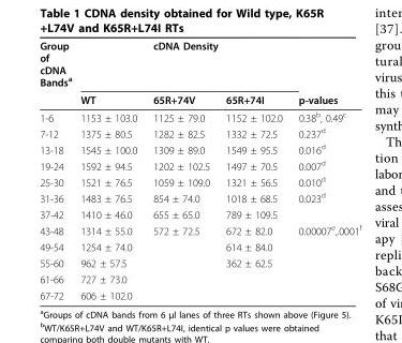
<table><thead><tr><td rowspan="2">Group of cDNA Bands<sup>a</sup></td><td colspan="3">cDNA Density</td><td rowspan="2">p-values</td></tr><tr><td>WT</td><td>65R+74V</td><td>65R+74I</td></tr></thead><tbody><tr><td>1-6</td><td>1153 ± 103.0</td><td>1125 ± 79.0</td><td>1152 ± 102.0</td><td>0.38<sup>b</sup>, 0.49<sup>c</sup></td></tr><tr><td>7-12</td><td>1375 ± 80.5</td><td>1282 ± 82.5</td><td>1332 ± 72.5</td><td>0.237<sup>d</sup></td></tr><tr><td>13-18</td><td>1545 ± 100.0</td><td>1309 ± 89.0</td><td>1549 ± 95.5</td><td>0.016<sup>d</sup></td></tr><tr><td>19-24</td><td>1592 ± 94.5</td><td>1202 ± 102.5</td><td>1497 ± 70.5</td><td>0.007<sup>d</sup></td></tr><tr><td>25-30</td><td>1521 ± 76.5</td><td>1059 ± 109.0</td><td>1321 ± 56.5</td><td>0.010<sup>d</sup></td></tr><tr><td>31-36</td><td>1483 ± 76.5</td><td>854 ± 74.0</td><td>1018 ± 68.5</td><td>0.023<sup>d</sup></td></tr><tr><td>37-42</td><td>1410 ± 46.0</td><td>655 ± 65.0</td><td>789 ± 109.5</td><td></td></tr><tr><td>43-48</td><td>1314 ± 55.0</td><td>572 ± 72.5</td><td>672 ± 82.0</td><td>0.00007<sup>e</sup>,.0001<sup>f</sup></td></tr><tr><td>49-54</td><td>1254 ± 74.0</td><td></td><td>614 ± 84.0</td><td></td></tr><tr><td>55-60</td><td>962 ± 57.5</td><td></td><td>362 ± 62.5</td><td></td></tr><tr><td>61-66</td><td>727 ± 73.0</td><td></td><td></td><td></td></tr><tr><td>67-72</td><td>606 ± 102.0</td><td></td><td></td><td></td></tr></tbody></table>